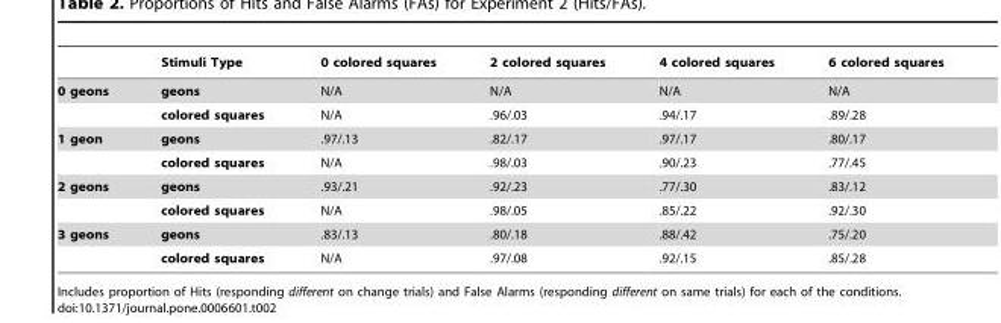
<table><thead><tr><td></td><td>Stimuli Type</td><td>0 colored squares</td><td>2 colored squares</td><td>4 colored squares</td><td>6 colored squares</td></tr></thead><tbody><tr><td rowspan="2">0 geons</td><td>geons</td><td>N/A</td><td>N/A</td><td>N/A</td><td>N/A</td></tr><tr><td>colored squares</td><td>N/A</td><td>.96/.03</td><td>.94/.17</td><td>.89/.28</td></tr><tr><td rowspan="2">1 geon</td><td>geons</td><td>.97/.13</td><td>.82/.17</td><td>.97/.17</td><td>.80/.17</td></tr><tr><td>colored squares</td><td>N/A</td><td>.98/.03</td><td>.90/.23</td><td>.77/.45</td></tr><tr><td rowspan="2">2 geons</td><td>geons</td><td>.93/.21</td><td>.92/.23</td><td>.77/.30</td><td>.83/.12</td></tr><tr><td>colored squares</td><td>N/A</td><td>.98/.05</td><td>.85/.22</td><td>.92/.30</td></tr><tr><td rowspan="2">3 geons</td><td>geons</td><td>.83/.13</td><td>.80/.18</td><td>.88/.42</td><td>.75/.20</td></tr><tr><td>colored squares</td><td>N/A</td><td>.97/.08</td><td>.92/.15</td><td>.85/.28</td></tr></tbody></table>